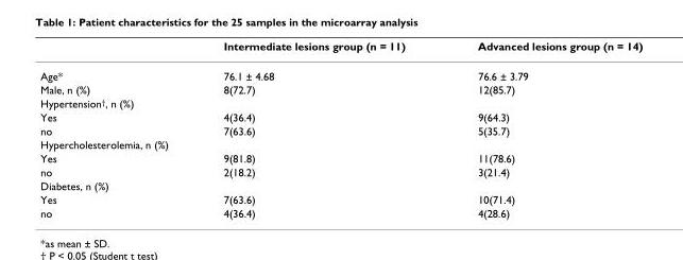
<table><thead><tr><td></td><td>Intermediate lesions group (n = 11)</td><td>Advanced lesions group (n = 14)</td></tr></thead><tbody><tr><td>Age*</td><td>76.1 ± 4.68</td><td>76.6 ± 3.79</td></tr><tr><td>Male, n (%)</td><td>8(72.7)</td><td>12(85.7)</td></tr><tr><td colspan="3">Hypertension<sup>†</sup>, n (%)</td></tr><tr><td>Yes</td><td>4(36.4)</td><td>9(64.3)</td></tr><tr><td>no</td><td>7(63.6)</td><td>5(35.7)</td></tr><tr><td colspan="3">Hypercholesterolemia, n (%)</td></tr><tr><td>Yes</td><td>9(81.8)</td><td>11(78.6)</td></tr><tr><td>no</td><td>2(18.2)</td><td>3(21.4)</td></tr><tr><td colspan="3">Diabetes, n (%)</td></tr><tr><td>Yes</td><td>7(63.6)</td><td>10(71.4)</td></tr><tr><td>no</td><td>4(36.4)</td><td>4(28.6)</td></tr></tbody></table>